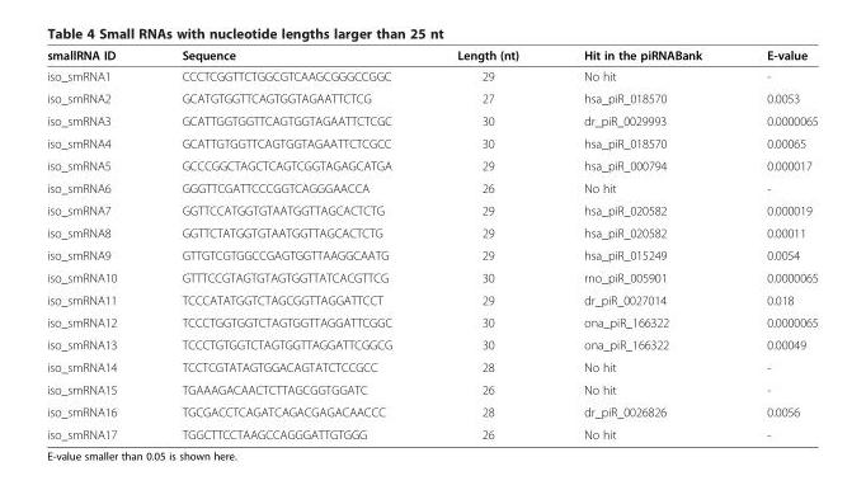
<table><thead><tr><td>smallRNA ID</td><td>Sequence</td><td>Length (nt)</td><td>Hit in the piRNABank</td><td>E-value</td></tr></thead><tbody><tr><td>iso_smRNA1</td><td>CCCTCGGTTCTGGCGTCAAGCGGGCCGGC</td><td>29</td><td>No hit</td><td>-</td></tr><tr><td>iso_smRNA2</td><td>GCATGTGGTTCAGTGGTAGAATTCTCG</td><td>27</td><td>hsa_piR_018570</td><td>0.0053</td></tr><tr><td>iso_smRNA3</td><td>GCATTGGTGGTTCAGTGGTAGAATTCTCGC</td><td>30</td><td>dr_piR_0029993</td><td>0.0000065</td></tr><tr><td>iso_smRNA4</td><td>GCATTGTGGTTCAGTGGTAGAATTCTCGCC</td><td>30</td><td>hsa_piR_018570</td><td>0.00065</td></tr><tr><td>iso_smRNA5</td><td>GCCCGGCTAGCTCAGTCGGTAGAGCATGA</td><td>29</td><td>hsa_piR_000794</td><td>0.000017</td></tr><tr><td>iso_smRNA6</td><td>GGGTTCGATTCCCGGTCAGGGAACCA</td><td>26</td><td>No hit</td><td>-</td></tr><tr><td>iso_smRNA7</td><td>GGTTCCATGGTGTAATGGTTAGCACTCTG</td><td>29</td><td>hsa_piR_020582</td><td>0.000019</td></tr><tr><td>iso_smRNA8</td><td>GGTTCTATGGTGTAATGGTTAGCACTCTG</td><td>29</td><td>hsa_piR_020582</td><td>0.00011</td></tr><tr><td>iso_smRNA9</td><td>GTTGTCGTGGCCGAGTGGTTAAGGCAATG</td><td>29</td><td>hsa_piR_015249</td><td>0.0054</td></tr><tr><td>iso_smRNA10</td><td>GTTTCCGTAGTGTAGTGGTTATCACGTTCG</td><td>30</td><td>rno_piR_005901</td><td>0.0000065</td></tr><tr><td>iso_smRNA11</td><td>TCCCATATGGTCTAGCGGTTAGGATTCCT</td><td>29</td><td>dr_piR_0027014</td><td>0.018</td></tr><tr><td>iso_smRNA12</td><td>TCCCTGGTGGTCTAGTGGTTAGGATTCGGC</td><td>30</td><td>ona_piR_166322</td><td>0.0000065</td></tr><tr><td>iso_smRNA13</td><td>TCCCTGTGGTCTAGTGGTTAGGATTCGGCG</td><td>30</td><td>ona_piR_166322</td><td>0.00049</td></tr><tr><td>iso_smRNA14</td><td>TCCTCGTATAGTGGACAGTATCTCCGCC</td><td>28</td><td>No hit</td><td>-</td></tr><tr><td>iso_smRNA15</td><td>TGAAAGACAACTCTTAGCGGTGGATC</td><td>26</td><td>No hit</td><td>-</td></tr><tr><td>iso_smRNA16</td><td>TGCGACCTCAGATCAGACGAGACAACCC</td><td>28</td><td>dr_piR_0026826</td><td>0.0056</td></tr><tr><td>iso_smRNA17</td><td>TGGCTTCCTAAGCCAGGGATTGTGGG</td><td>26</td><td>No hit</td><td>-</td></tr></tbody></table>